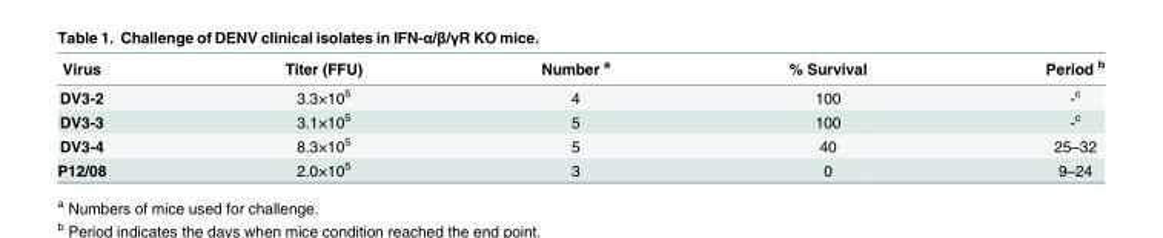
<table><thead><tr><td>Virus</td><td>Titer (FFU)</td><td>Number <sup>a</sup></td><td>% Survival</td><td>Period <sup>b</sup></td></tr></thead><tbody><tr><td>DV3-2</td><td>3.3×10<sup>5</sup></td><td>4</td><td>100</td><td>-<sup>c</sup></td></tr><tr><td>DV3-3</td><td>3.1×10<sup>5</sup></td><td>5</td><td>100</td><td>-<sup>c</sup></td></tr><tr><td>DV3-4</td><td>8.3×10<sup>5</sup></td><td>5</td><td>40</td><td>25–32</td></tr><tr><td>P12/08</td><td>2.0×10<sup>5</sup></td><td>3</td><td>0</td><td>9–24</td></tr></tbody></table>